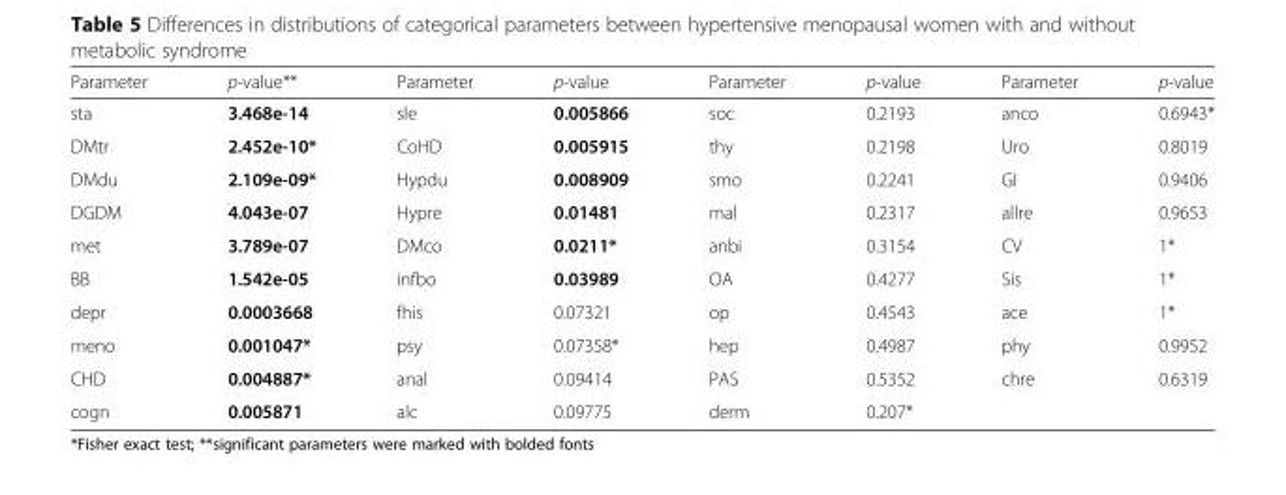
<table><thead><tr><td>Parameter</td><td>p-value**</td><td>Parameter</td><td>p-value</td><td>Parameter</td><td>p-value</td><td>Parameter</td><td>p-value</td></tr></thead><tbody><tr><td>sta</td><td>3.468e-14</td><td>sle</td><td>0.005866</td><td>soc</td><td>0.2193</td><td>anco</td><td>0.6943*</td></tr><tr><td>DMtr</td><td>2.452e-10*</td><td>CoHD</td><td>0.005915</td><td>thy</td><td>0.2198</td><td>Uro</td><td>0.8019</td></tr><tr><td>DMdu</td><td>2.109e-09*</td><td>Hypdu</td><td>0.008909</td><td>smo</td><td>0.2241</td><td>GI</td><td>0.9406</td></tr><tr><td>DGDM</td><td>4.043e-07</td><td>Hypre</td><td>0.01481</td><td>mal</td><td>0.2317</td><td>allre</td><td>0.9653</td></tr><tr><td>met</td><td>3.789e-07</td><td>DMco</td><td>0.0211*</td><td>anbi</td><td>0.3154</td><td>CV</td><td>1*</td></tr><tr><td>BB</td><td>1.542e-05</td><td>infbo</td><td>0.03989</td><td>OA</td><td>0.4277</td><td>Sis</td><td>1*</td></tr><tr><td>depr</td><td>0.0003668</td><td>fhis</td><td>0.07321</td><td>op</td><td>0.4543</td><td>ace</td><td>1*</td></tr><tr><td>meno</td><td>0.001047*</td><td>psy</td><td>0.07358*</td><td>hep</td><td>0.4987</td><td>phy</td><td>0.9952</td></tr><tr><td>CHD</td><td>0.004887*</td><td>anal</td><td>0.09414</td><td>PAS</td><td>0.5352</td><td>chre</td><td>0.6319</td></tr><tr><td>cogn</td><td>0.005871</td><td>alc</td><td>0.09775</td><td>derm</td><td>0.207*</td><td></td><td></td></tr></tbody></table>